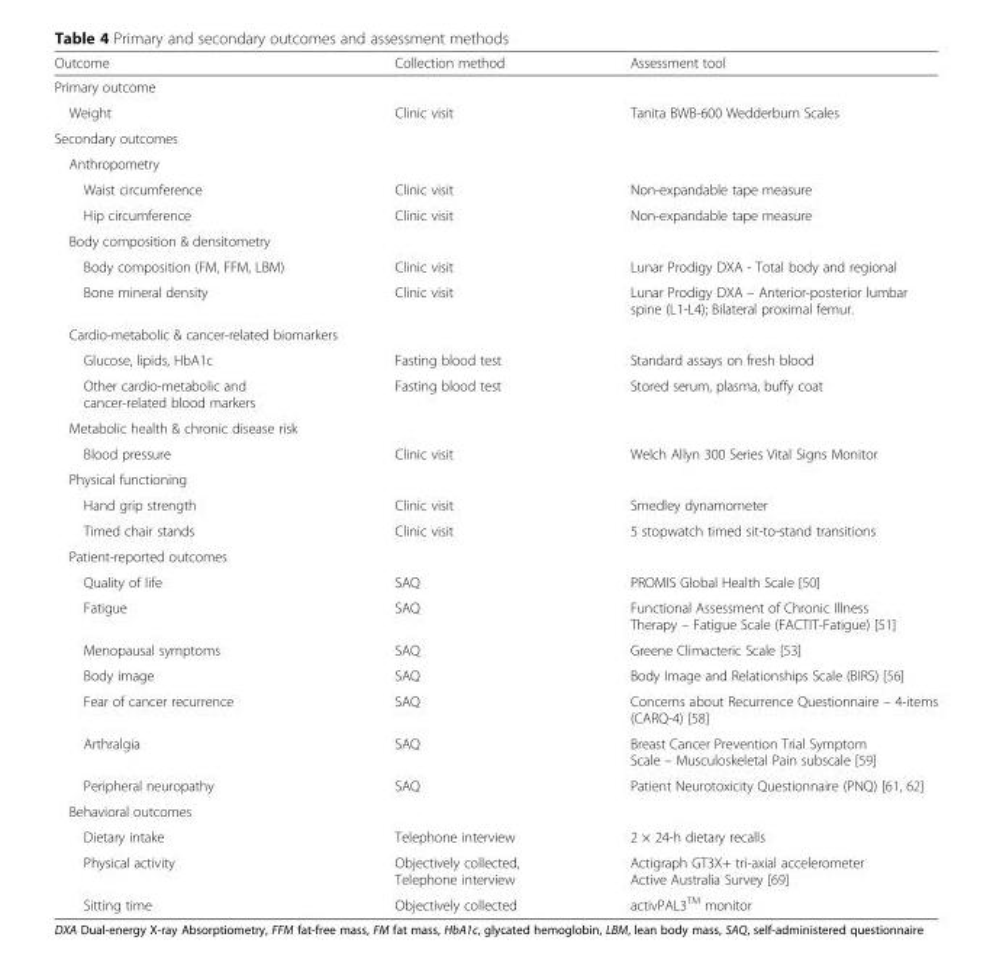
<table><thead><tr><td>Outcome</td><td>Collection method</td><td>Assessment tool</td></tr></thead><tbody><tr><td colspan="3">Primary outcome</td></tr><tr><td>Weight</td><td>Clinic visit</td><td>Tanita BWB-600 Wedderburn Scales</td></tr><tr><td colspan="3">Secondary outcomes</td></tr><tr><td colspan="3">Anthropometry</td></tr><tr><td>Waist circumference</td><td>Clinic visit</td><td>Non-expandable tape measure</td></tr><tr><td>Hip circumference</td><td>Clinic visit</td><td>Non-expandable tape measure</td></tr><tr><td colspan="3">Body composition &amp; densitometry</td></tr><tr><td>Body composition (FM, FFM, LBM)</td><td>Clinic visit</td><td>Lunar Prodigy DXA - Total body and regional</td></tr><tr><td>Bone mineral density</td><td>Clinic visit</td><td>Lunar Prodigy DXA – Anterior-posterior lumbar spine (L1-L4); Bilateral proximal femur.</td></tr><tr><td colspan="3">Cardio-metabolic &amp; cancer-related biomarkers</td></tr><tr><td>Glucose, lipids, HbA1c</td><td>Fasting blood test</td><td>Standard assays on fresh blood</td></tr><tr><td>Other cardio-metabolic and cancer-related blood markers</td><td>Fasting blood test</td><td>Stored serum, plasma, buffy coat</td></tr><tr><td colspan="3">Metabolic health &amp; chronic disease risk</td></tr><tr><td>Blood pressure</td><td>Clinic visit</td><td>Welch Allyn 300 Series Vital Signs Monitor</td></tr><tr><td colspan="3">Physical functioning</td></tr><tr><td>Hand grip strength</td><td>Clinic visit</td><td>Smedley dynamometer</td></tr><tr><td>Timed chair stands</td><td>Clinic visit</td><td>5 stopwatch timed sit-to-stand transitions</td></tr><tr><td colspan="3">Patient-reported outcomes</td></tr><tr><td>Quality of life</td><td>SAQ</td><td>PROMIS Global Health Scale [50]</td></tr><tr><td>Fatigue</td><td>SAQ</td><td>Functional Assessment of Chronic Illness Therapy – Fatigue Scale (FACTIT-Fatigue) [51]</td></tr><tr><td>Menopausal symptoms</td><td>SAQ</td><td>Greene Climacteric Scale [53]</td></tr><tr><td>Body image</td><td>SAQ</td><td>Body Image and Relationships Scale (BIRS) [56]</td></tr><tr><td>Fear of cancer recurrence</td><td>SAQ</td><td>Concerns about Recurrence Questionnaire – 4-items (CARQ-4) [58]</td></tr><tr><td>Arthralgia</td><td>SAQ</td><td>Breast Cancer Prevention Trial Symptom Scale – Musculoskeletal Pain subscale [59]</td></tr><tr><td>Peripheral neuropathy</td><td>SAQ</td><td>Patient Neurotoxicity Questionnaire (PNQ) [61, 62]</td></tr><tr><td colspan="3">Behavioral outcomes</td></tr><tr><td>Dietary intake</td><td>Telephone interview</td><td>2 × 24-h dietary recalls</td></tr><tr><td>Physical activity</td><td>Objectively collected, Telephone interview</td><td>Actigraph GT3X+ tri-axial accelerometer Active Australia Survey [69]</td></tr><tr><td>Sitting time</td><td>Objectively collected</td><td>activPAL3<sup>TM</sup> monitor</td></tr></tbody></table>